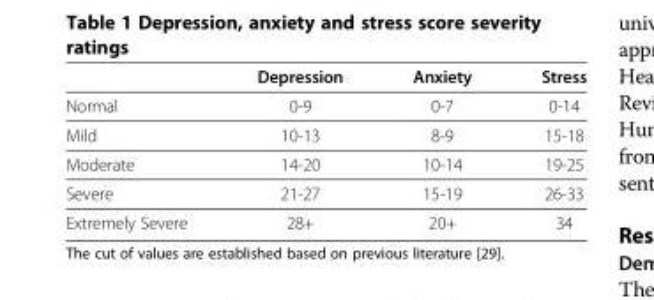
<table><thead><tr><td></td><td>Depression</td><td>Anxiety</td><td>Stress</td></tr></thead><tbody><tr><td>Normal</td><td>0-9</td><td>0-7</td><td>0-14</td></tr><tr><td>Mild</td><td>10-13</td><td>8-9</td><td>15-18</td></tr><tr><td>Moderate</td><td>14-20</td><td>10-14</td><td>19-25</td></tr><tr><td>Severe</td><td>21-27</td><td>15-19</td><td>26-33</td></tr><tr><td>Extremely Severe</td><td>28+</td><td>20+</td><td>34</td></tr></tbody></table>